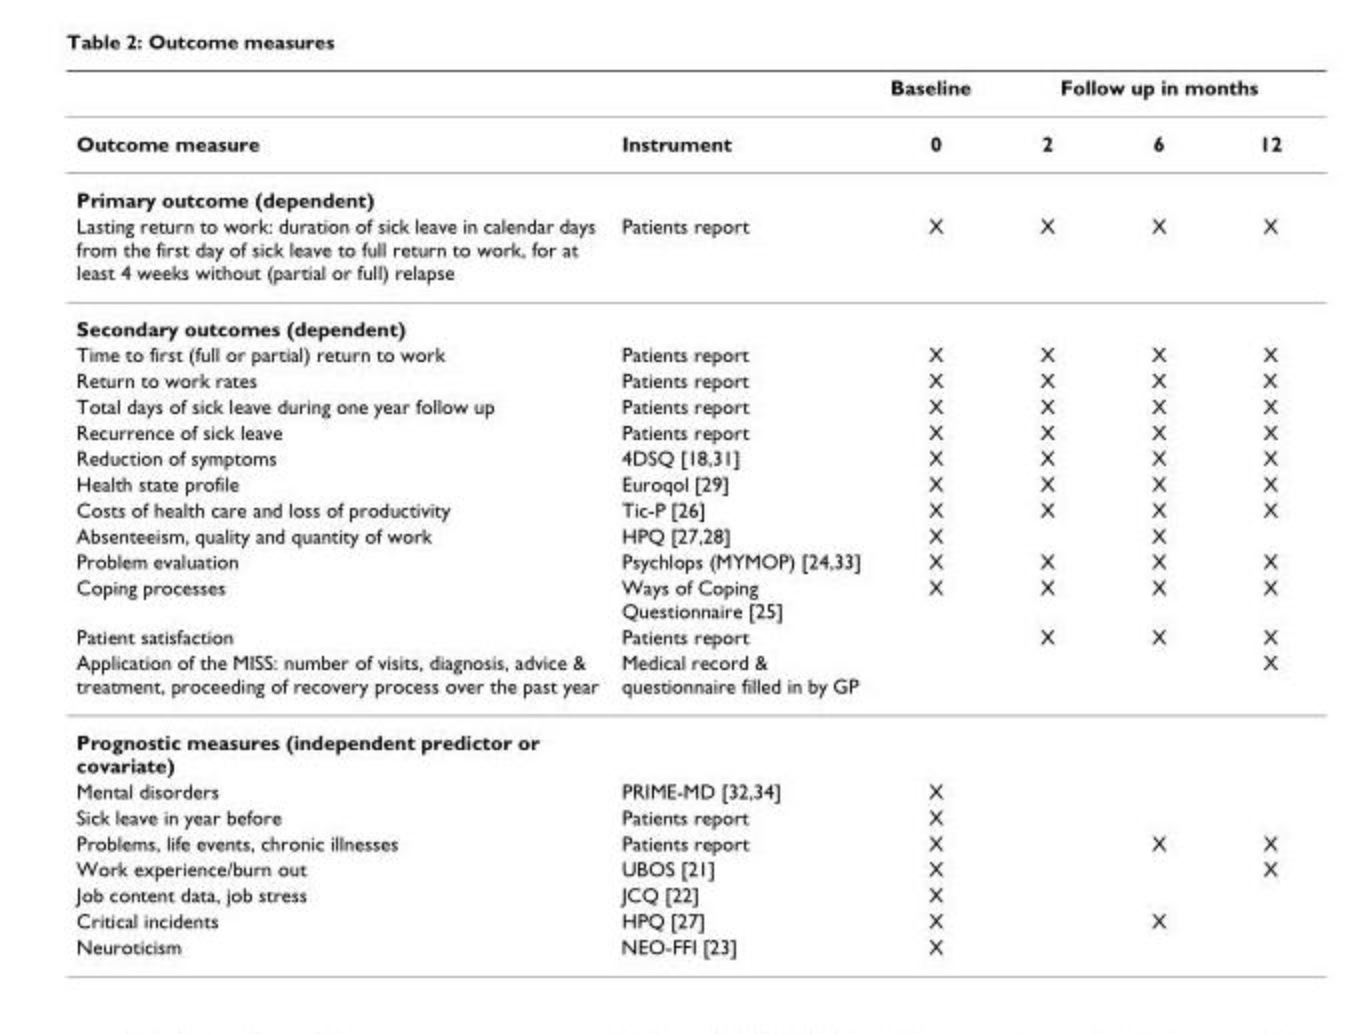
<table><thead><tr><td rowspan="2">Outcome measure</td><td rowspan="2">Instrument</td><td rowspan="2">Baseline 0</td><td colspan="3">Follow up in months</td></tr><tr><td>2</td><td>6</td><td>12</td></tr></thead><tbody><tr><td colspan="6">Primary outcome (dependent)</td></tr><tr><td>Lasting return to work: duration of sick leave in calendar days from the first day of sick leave to full return to work, for at least 4 weeks without (partial or full) relapse</td><td>Patients report</td><td>X</td><td>X</td><td>X</td><td>X</td></tr><tr><td colspan="6">Secondary outcomes (dependent)</td></tr><tr><td>Time to first (full or partial) return to work</td><td>Patients report</td><td>X</td><td>X</td><td>X</td><td>X</td></tr><tr><td>Return to work rates</td><td>Patients report</td><td>X</td><td>X</td><td>X</td><td>X</td></tr><tr><td>Total days of sick leave during one year follow up</td><td>Patients report</td><td>X</td><td>X</td><td>X</td><td>X</td></tr><tr><td>Recurrence of sick leave</td><td>Patients report</td><td>X</td><td>X</td><td>X</td><td>X</td></tr><tr><td>Reduction of symptoms</td><td>4DSQ [18,31]</td><td>X</td><td>X</td><td>X</td><td>X</td></tr><tr><td>Health state profile</td><td>Euroqol [29]</td><td>X</td><td>X</td><td>X</td><td>X</td></tr><tr><td>Costs of health care and loss of productivity</td><td>Tic-P [26]</td><td>X</td><td>X</td><td>X</td><td>X</td></tr><tr><td>Absenteeism, quality and quantity of work</td><td>HPQ [27,28]</td><td>X</td><td></td><td>X</td><td></td></tr><tr><td>Problem evaluation</td><td>Psychlops (MYMOP) [24,33]</td><td>X</td><td>X</td><td>X</td><td>X</td></tr><tr><td>Coping processes</td><td>Ways of Coping Questionnaire [25]</td><td>X</td><td>X</td><td>X</td><td>X</td></tr><tr><td>Patient satisfaction</td><td>Patients report</td><td></td><td>X</td><td>X</td><td>X</td></tr><tr><td>Application of the MISS: number of visits, diagnosis, advice &amp; treatment, proceeding of recovery process over the past year</td><td>Medical record &amp; questionnaire filled in by GP</td><td></td><td></td><td></td><td>X</td></tr><tr><td colspan="6">Prognostic measures (independent predictor or covariate)</td></tr><tr><td>Mental disorders</td><td>PRIME-MD [32,34]</td><td>X</td><td></td><td></td><td></td></tr><tr><td>Sick leave in year before</td><td>Patients report</td><td>X</td><td></td><td></td><td></td></tr><tr><td>Problems, life events, chronic illnesses</td><td>Patients report</td><td>X</td><td></td><td>X</td><td>X</td></tr><tr><td>Work experience/burn out</td><td>UBOS [21]</td><td>X</td><td></td><td></td><td>X</td></tr><tr><td>Job content data, job stress</td><td>JCQ [22]</td><td>X</td><td></td><td></td><td></td></tr><tr><td>Critical incidents</td><td>HPQ [27]</td><td>X</td><td></td><td>X</td><td></td></tr><tr><td>Neuroticism</td><td>NEO-FFI [23]</td><td>X</td><td></td><td></td><td></td></tr></tbody></table>